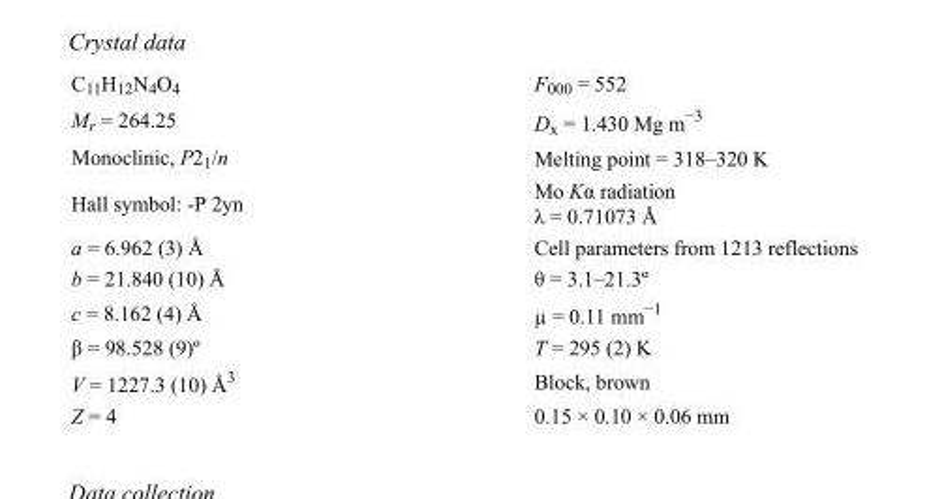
<table><tbody><tr><td>C<sub>11</sub>H<sub>12</sub>N<sub>4</sub>O<sub>4</sub></td><td>F000 = 552</td></tr><tr><td>M<sub>r</sub> = 264.25</td><td>D<sub>x</sub> = 1.430 Mg m<sup>−3</sup></td></tr><tr><td>Monoclinic, P2<sub>1</sub>/n</td><td>Melting point = 318–320 K</td></tr><tr><td>Hall symbol: -P 2yn</td><td>Mo Kα radiation λ = 0.71073 Å</td></tr><tr><td>a = 6.962 (3) Å</td><td>Cell parameters from 1213 reflections</td></tr><tr><td>b = 21.840 (10) Å</td><td>θ = 3.1–21.3º</td></tr><tr><td>c = 8.162 (4) Å</td><td>µ = 0.11 mm<sup>−1</sup></td></tr><tr><td>β = 98.528 (9)º</td><td>T = 295 (2) K</td></tr><tr><td>V = 1227.3 (10) Å<sup>3</sup></td><td>Block, brown</td></tr><tr><td>Z = 4</td><td>0.15 × 0.10 × 0.06 mm</td></tr></tbody></table>